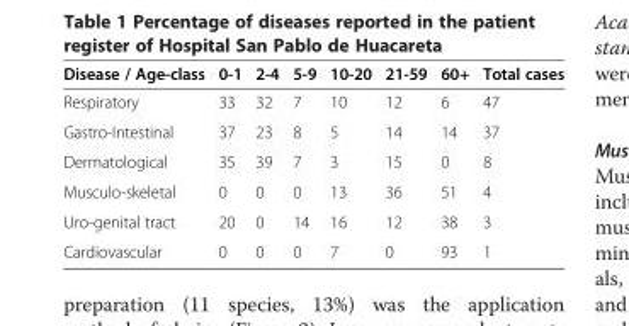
<table><thead><tr><td>Disease / Age-class</td><td>0-1</td><td>2-4</td><td>5-9</td><td>10-20</td><td>21-59</td><td>60+</td><td>Total cases</td></tr></thead><tbody><tr><td>Respiratory</td><td>33</td><td>32</td><td>7</td><td>10</td><td>12</td><td>6</td><td>47</td></tr><tr><td>Gastro-Intestinal</td><td>37</td><td>23</td><td>8</td><td>5</td><td>14</td><td>14</td><td>37</td></tr><tr><td>Dermatological</td><td>35</td><td>39</td><td>7</td><td>3</td><td>15</td><td>0</td><td>8</td></tr><tr><td>Musculo-skeletal</td><td>0</td><td>0</td><td>0</td><td>13</td><td>36</td><td>51</td><td>4</td></tr><tr><td>Uro-genital tract</td><td>20</td><td>0</td><td>14</td><td>16</td><td>12</td><td>38</td><td>3</td></tr><tr><td>Cardiovascular</td><td>0</td><td>0</td><td>0</td><td>7</td><td>0</td><td>93</td><td>1</td></tr></tbody></table>